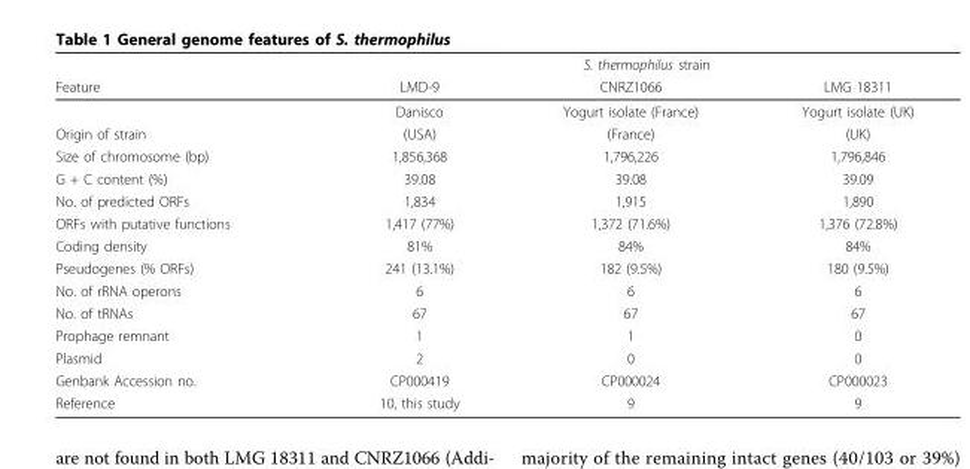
<table><thead><tr><td rowspan="2">Feature</td><td colspan="3">S. thermophilus strain</td></tr><tr><td>LMD-9</td><td>CNRZ1066</td><td>LMG 18311</td></tr></thead><tbody><tr><td></td><td>Danisco</td><td>Yogurt isolate (France)</td><td>Yogurt isolate (UK)</td></tr><tr><td>Origin of strain</td><td>(USA)</td><td>(France)</td><td>(UK)</td></tr><tr><td>Size of chromosome (bp)</td><td>1,856,368</td><td>1,796,226</td><td>1,796,846</td></tr><tr><td>G + C content (%)</td><td>39.08</td><td>39.08</td><td>39.09</td></tr><tr><td>No. of predicted ORFs</td><td>1,834</td><td>1,915</td><td>1,890</td></tr><tr><td>ORFs with putative functions</td><td>1,417 (77%)</td><td>1,372 (71.6%)</td><td>1,376 (72.8%)</td></tr><tr><td>Coding density</td><td>81%</td><td>84%</td><td>84%</td></tr><tr><td>Pseudogenes (% ORFs)</td><td>241 (13.1%)</td><td>182 (9.5%)</td><td>180 (9.5%)</td></tr><tr><td>No. of rRNA operons</td><td>6</td><td>6</td><td>6</td></tr><tr><td>No. of tRNAs</td><td>67</td><td>67</td><td>67</td></tr><tr><td>Prophage remnant</td><td>1</td><td>1</td><td>0</td></tr><tr><td>Plasmid</td><td>2</td><td>0</td><td>0</td></tr><tr><td>Genbank Accession no.</td><td>CP000419</td><td>CP000024</td><td>CP000023</td></tr><tr><td>Reference</td><td>10, this study</td><td>9</td><td>9</td></tr></tbody></table>